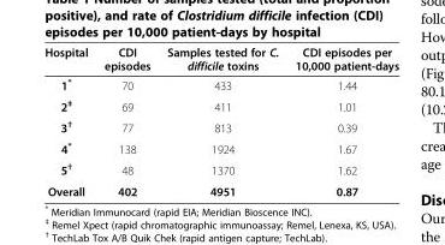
<table><thead><tr><td>Hospital</td><td>CDI episodes</td><td>Samples tested for C. difficile toxins</td><td>CDI episodes per 10,000 patient-days</td></tr></thead><tbody><tr><td>1*</td><td>70</td><td>433</td><td>1.44</td></tr><tr><td>2<sup>‡</sup></td><td>69</td><td>411</td><td>1.01</td></tr><tr><td>3<sup>†</sup></td><td>77</td><td>813</td><td>0.39</td></tr><tr><td>4*</td><td>138</td><td>1924</td><td>1.67</td></tr><tr><td>5<sup>†</sup></td><td>48</td><td>1370</td><td>1.62</td></tr><tr><td>Overall</td><td>402</td><td>4951</td><td>0.87</td></tr></tbody></table>